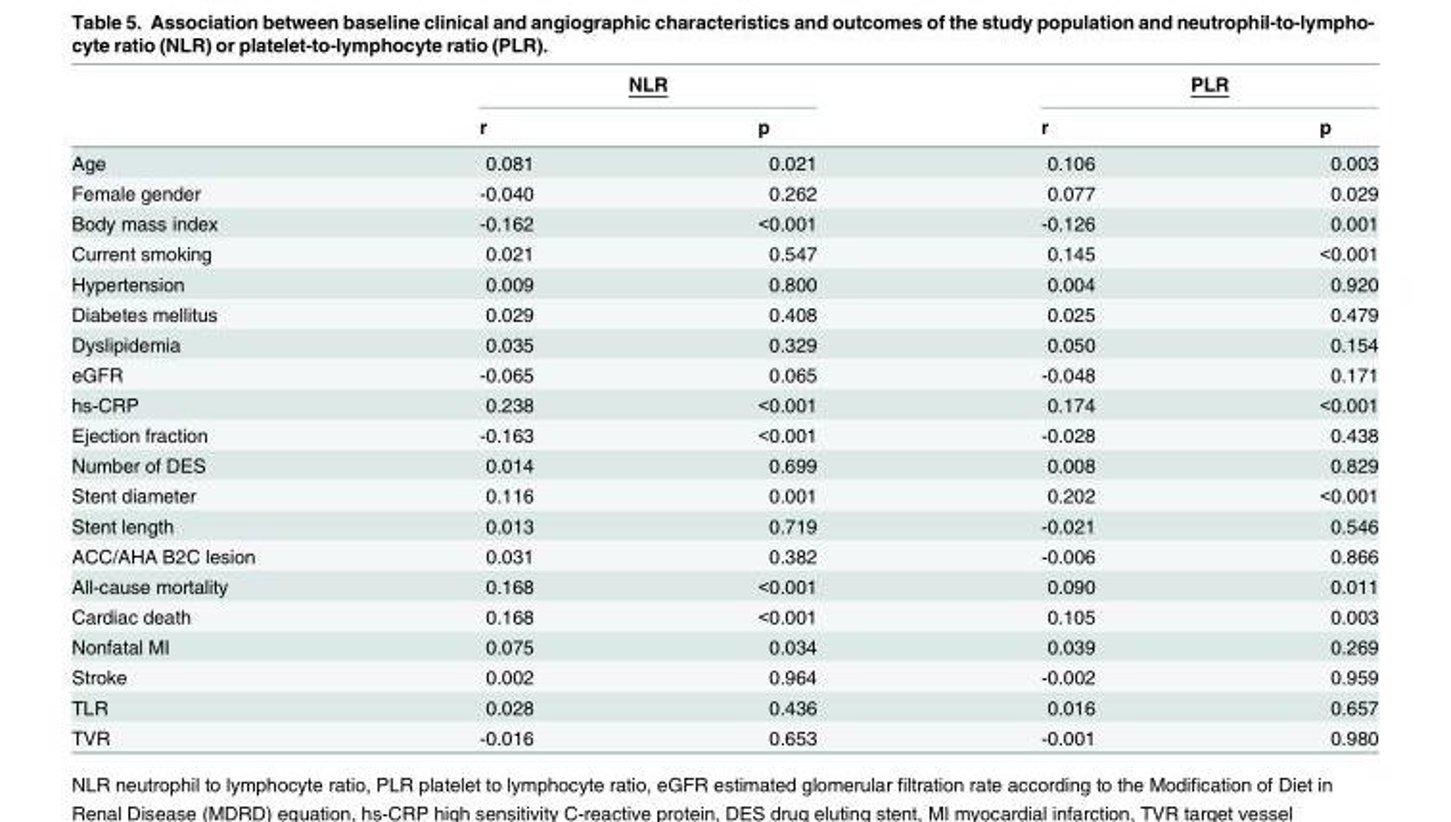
<table><thead><tr><td rowspan="2"></td><td colspan="2">NLR</td><td colspan="2">PLR</td></tr><tr><td>r</td><td>p</td><td>r</td><td>p</td></tr></thead><tbody><tr><td>Age</td><td>0.081</td><td>0.021</td><td>0.106</td><td>0.003</td></tr><tr><td>Female gender</td><td>-0.040</td><td>0.262</td><td>0.077</td><td>0.029</td></tr><tr><td>Body mass index</td><td>-0.162</td><td>&lt;0.001</td><td>-0.126</td><td>0.001</td></tr><tr><td>Current smoking</td><td>0.021</td><td>0.547</td><td>0.145</td><td>&lt;0.001</td></tr><tr><td>Hypertension</td><td>0.009</td><td>0.800</td><td>0.004</td><td>0.920</td></tr><tr><td>Diabetes mellitus</td><td>0.029</td><td>0.408</td><td>0.025</td><td>0.479</td></tr><tr><td>Dyslipidemia</td><td>0.035</td><td>0.329</td><td>0.050</td><td>0.154</td></tr><tr><td>eGFR</td><td>-0.065</td><td>0.065</td><td>-0.048</td><td>0.171</td></tr><tr><td>hs-CRP</td><td>0.238</td><td>&lt;0.001</td><td>0.174</td><td>&lt;0.001</td></tr><tr><td>Ejection fraction</td><td>-0.163</td><td>&lt;0.001</td><td>-0.028</td><td>0.438</td></tr><tr><td>Number of DES</td><td>0.014</td><td>0.699</td><td>0.008</td><td>0.829</td></tr><tr><td>Stent diameter</td><td>0.116</td><td>0.001</td><td>0.202</td><td>&lt;0.001</td></tr><tr><td>Stent length</td><td>0.013</td><td>0.719</td><td>-0.021</td><td>0.546</td></tr><tr><td>ACC/AHA B2C lesion</td><td>0.031</td><td>0.382</td><td>-0.006</td><td>0.866</td></tr><tr><td>All-cause mortality</td><td>0.168</td><td>&lt;0.001</td><td>0.090</td><td>0.011</td></tr><tr><td>Cardiac death</td><td>0.168</td><td>&lt;0.001</td><td>0.105</td><td>0.003</td></tr><tr><td>Nonfatal MI</td><td>0.075</td><td>0.034</td><td>0.039</td><td>0.269</td></tr><tr><td>Stroke</td><td>0.002</td><td>0.964</td><td>-0.002</td><td>0.959</td></tr><tr><td>TLR</td><td>0.028</td><td>0.436</td><td>0.016</td><td>0.657</td></tr><tr><td>TVR</td><td>-0.016</td><td>0.653</td><td>-0.001</td><td>0.980</td></tr></tbody></table>